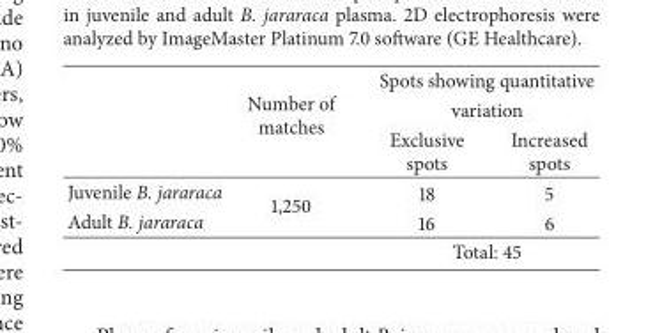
<table><thead><tr><td rowspan="3"></td><td rowspan="3">Number of matches</td><td rowspan="2" colspan="2">Spots showing quantitative variation</td></tr><tr></tr><tr><td>Exclusive spots</td><td>Increased spots</td></tr></thead><tbody><tr><td>Juvenile B. jararaca</td><td rowspan="2">1,250</td><td>18</td><td>5</td></tr><tr><td rowspan="2">Adult B. jararaca</td><td>16</td><td>6</td></tr><tr><td></td><td colspan="2">Total: 45</td></tr></tbody></table>